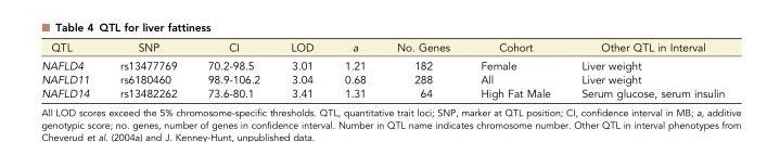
<table><thead><tr><td>QTL</td><td>SNP</td><td>CI</td><td>LOD</td><td>a</td><td>No. Genes</td><td>Cohort</td><td>Other QTL in Interval</td></tr></thead><tbody><tr><td>NAFLD4</td><td>rs13477769</td><td>70.2-98.5</td><td>3.01</td><td>1.21</td><td>182</td><td>Female</td><td>Liver weight</td></tr><tr><td>NAFLD11</td><td>rs6180460</td><td>98.9-106.2</td><td>3.04</td><td>0.68</td><td>288</td><td>All</td><td>Liver weight</td></tr><tr><td>NAFLD14</td><td>rs13482262</td><td>73.6-80.1</td><td>3.41</td><td>1.31</td><td>64</td><td>High Fat Male</td><td>Serum glucose, serum insulin</td></tr></tbody></table>